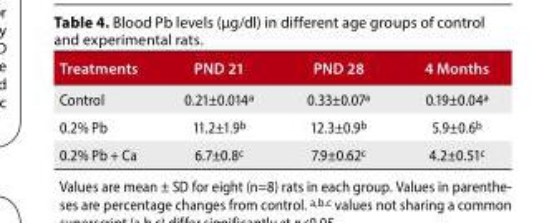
<table><thead><tr><td>Treatments</td><td>PND 21</td><td>PND 28</td><td>4 Months</td></tr></thead><tbody><tr><td>Control</td><td>0.21±0.014<sup>a</sup></td><td>0.33±0.07<sup>a</sup></td><td>0.19±0.04<sup>a</sup></td></tr><tr><td>0.2% Pb</td><td>11.2±1.9<sup>b</sup></td><td>12.3±0.9<sup>b</sup></td><td>5.9±0.6<sup>b</sup></td></tr><tr><td>0.2% Pb + Ca</td><td>6.7±0.8<sup>c</sup></td><td>7.9±0.62<sup>c</sup></td><td>4.2±0.51<sup>c</sup></td></tr></tbody></table>